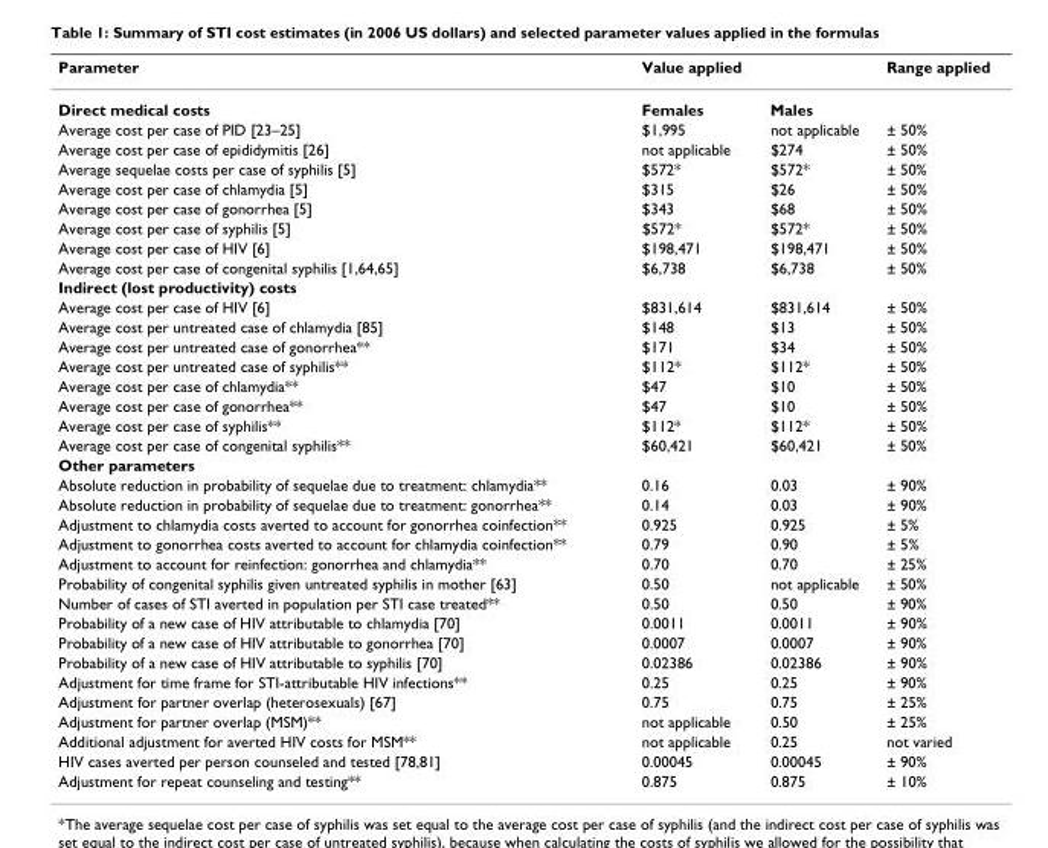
<table><thead><tr><td>Parameter</td><td>Value applied</td><td></td><td>Range applied</td></tr></thead><tbody><tr><td>Direct medical costs</td><td>Females</td><td>Males</td><td></td></tr><tr><td>Average cost per case of PID [23–25]</td><td>$1,995</td><td>not applicable</td><td>± 50%</td></tr><tr><td>Average cost per case of epididymitis [26]</td><td>not applicable</td><td>$274</td><td>± 50%</td></tr><tr><td>Average sequelae costs per case of syphilis [5]</td><td>$572*</td><td>$572*</td><td>± 50%</td></tr><tr><td>Average cost per case of chlamydia [5]</td><td>$315</td><td>$26</td><td>± 50%</td></tr><tr><td>Average cost per case of gonorrhea [5]</td><td>$343</td><td>$68</td><td>± 50%</td></tr><tr><td>Average cost per case of syphilis [5]</td><td>$572*</td><td>$572*</td><td>± 50%</td></tr><tr><td>Average cost per case of HIV [6]</td><td>$198,471</td><td>$198,471</td><td>± 50%</td></tr><tr><td>Average cost per case of congenital syphilis [1,64,65]</td><td>$6,738</td><td>$6,738</td><td>± 50%</td></tr><tr><td colspan="4">Indirect (lost productivity) costs</td></tr><tr><td>Average cost per case of HIV [6]</td><td>$831,614</td><td>$831,614</td><td>± 50%</td></tr><tr><td>Average cost per untreated case of chlamydia [85]</td><td>$148</td><td>$13</td><td>± 50%</td></tr><tr><td>Average cost per untreated case of gonorrhea**</td><td>$171</td><td>$34</td><td>± 50%</td></tr><tr><td>Average cost per untreated case of syphilis**</td><td>$112*</td><td>$112*</td><td>± 50%</td></tr><tr><td>Average cost per case of chlamydia**</td><td>$47</td><td>$10</td><td>± 50%</td></tr><tr><td>Average cost per case of gonorrhea**</td><td>$47</td><td>$10</td><td>± 50%</td></tr><tr><td>Average cost per case of syphilis**</td><td>$112*</td><td>$112*</td><td>± 50%</td></tr><tr><td>Average cost per case of congenital syphilis**</td><td>$60,421</td><td>$60,421</td><td>± 50%</td></tr><tr><td colspan="4">Other parameters</td></tr><tr><td>Absolute reduction in probability of sequelae due to treatment: chlamydia**</td><td>0.16</td><td>0.03</td><td>± 90%</td></tr><tr><td>Absolute reduction in probability of sequelae due to treatment: gonorrhea**</td><td>0.14</td><td>0.03</td><td>± 90%</td></tr><tr><td>Adjustment to chlamydia costs averted to account for gonorrhea coinfection**</td><td>0.925</td><td>0.925</td><td>± 5%</td></tr><tr><td>Adjustment to gonorrhea costs averted to account for chlamydia coinfection**</td><td>0.79</td><td>0.90</td><td>± 5%</td></tr><tr><td>Adjustment to account for reinfection: gonorrhea and chlamydia**</td><td>0.70</td><td>0.70</td><td>± 25%</td></tr><tr><td>Probability of congenital syphilis given untreated syphilis in mother [63]</td><td>0.50</td><td>not applicable</td><td>± 50%</td></tr><tr><td>Number of cases of STI averted in population per STI case treated**</td><td>0.50</td><td>0.50</td><td>± 90%</td></tr><tr><td>Probability of a new case of HIV attributable to chlamydia [70]</td><td>0.0011</td><td>0.0011</td><td>± 90%</td></tr><tr><td>Probability of a new case of HIV attributable to gonorrhea [70]</td><td>0.0007</td><td>0.0007</td><td>± 90%</td></tr><tr><td>Probability of a new case of HIV attributable to syphilis [70]</td><td>0.02386</td><td>0.02386</td><td>± 90%</td></tr><tr><td>Adjustment for time frame for STI-attributable HIV infections**</td><td>0.25</td><td>0.25</td><td>± 90%</td></tr><tr><td>Adjustment for partner overlap (heterosexuals) [67]</td><td>0.75</td><td>0.75</td><td>± 25%</td></tr><tr><td>Adjustment for partner overlap (MSM)**</td><td>not applicable</td><td>0.50</td><td>± 25%</td></tr><tr><td>Additional adjustment for averted HIV costs for MSM**</td><td>not applicable</td><td>0.25</td><td>not varied</td></tr><tr><td>HIV cases averted per person counseled and tested [78,81]</td><td>0.00045</td><td>0.00045</td><td>± 90%</td></tr><tr><td>Adjustment for repeat counseling and testing**</td><td>0.875</td><td>0.875</td><td>± 10%</td></tr></tbody></table>